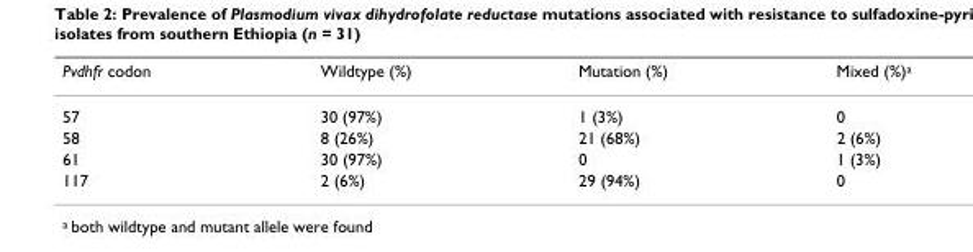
<table><thead><tr><td>Pvdhfr codon</td><td>Wildtype (%)</td><td>Mutation (%)</td><td>Mixed (%)<sup>a</sup></td></tr></thead><tbody><tr><td>57</td><td>30 (97%)</td><td>1 (3%)</td><td>0</td></tr><tr><td>58</td><td>8 (26%)</td><td>21 (68%)</td><td>2 (6%)</td></tr><tr><td>61</td><td>30 (97%)</td><td>0</td><td>1 (3%)</td></tr><tr><td>117</td><td>2 (6%)</td><td>29 (94%)</td><td>0</td></tr></tbody></table>